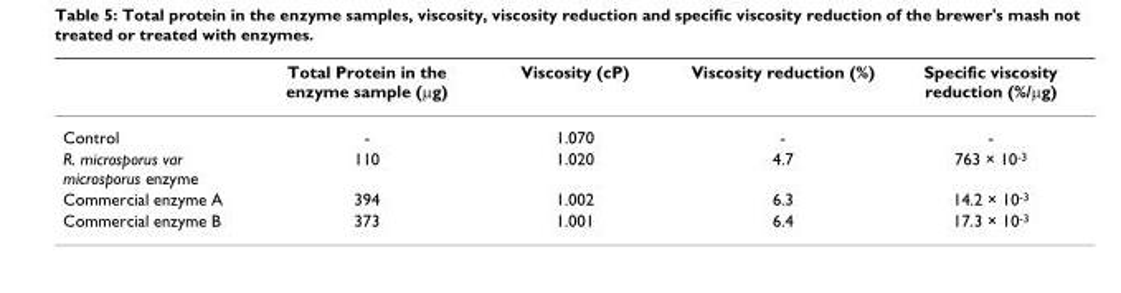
<table><thead><tr><td></td><td>Total Protein in the enzyme sample (µg)</td><td>Viscosity (cP)</td><td>Viscosity reduction (%)</td><td>Specific viscosity reduction (%/µg)</td></tr></thead><tbody><tr><td>Control</td><td>-</td><td>1.070</td><td>-</td><td>-</td></tr><tr><td>R. microsporus var microsporus enzyme</td><td>110</td><td>1.020</td><td>4.7</td><td>763 × 10<sup>-3</sup></td></tr><tr><td>Commercial enzyme A</td><td>394</td><td>1.002</td><td>6.3</td><td>14.2 × 10<sup>-3</sup></td></tr><tr><td>Commercial enzyme B</td><td>373</td><td>1.001</td><td>6.4</td><td>17.3 × 10<sup>-3</sup></td></tr></tbody></table>